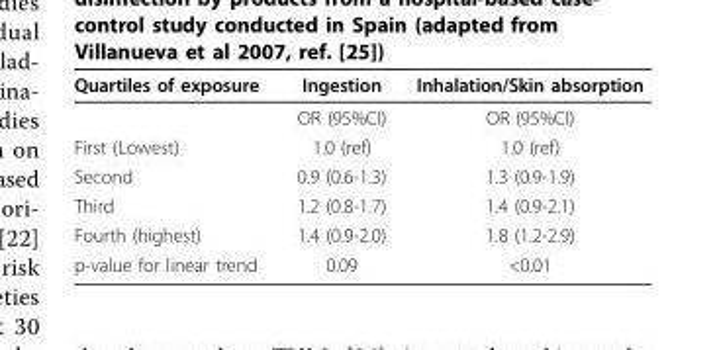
<table><thead><tr><td>Quartiles of exposure</td><td>Ingestion</td><td>Inhalation/Skin absorption</td></tr></thead><tbody><tr><td></td><td>OR (95%CI)</td><td>OR (95%CI)</td></tr><tr><td>First (Lowest)</td><td>1.0 (ref)</td><td>1.0 (ref)</td></tr><tr><td>Second</td><td>0.9 (0.6-1.3)</td><td>1.3 (0.9-1.9)</td></tr><tr><td>Third</td><td>1.2 (0.8-1.7)</td><td>1.4 (0.9-2.1)</td></tr><tr><td>Fourth (highest)</td><td>1.4 (0.9-2.0)</td><td>1.8 (1.2-2.9)</td></tr><tr><td>p-value for linear trend</td><td>0.09</td><td>&lt;0.01</td></tr></tbody></table>